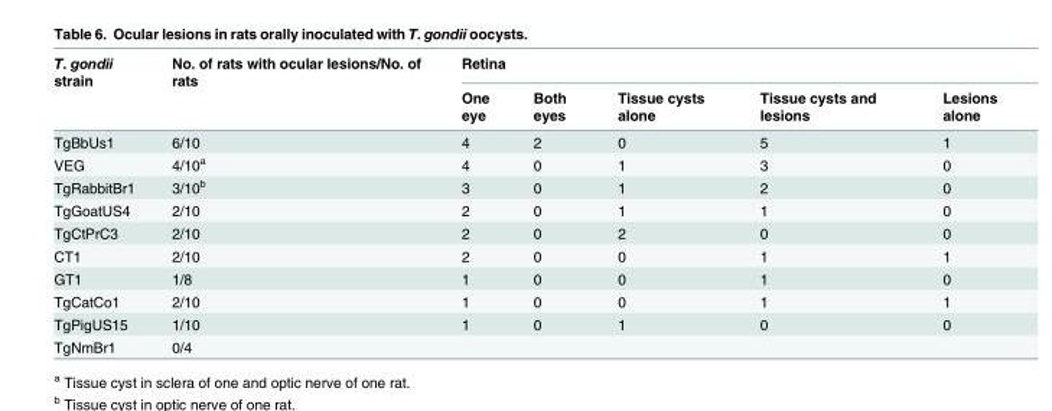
<table><thead><tr><td rowspan="2">T. gondii strain</td><td rowspan="2">No. of rats with ocular lesions/No. of rats</td><td colspan="5">Retina</td></tr><tr><td>One eye</td><td>Both eyes</td><td>Tissue cysts alone</td><td>Tissue cysts and lesions</td><td>Lesions alone</td></tr></thead><tbody><tr><td>TgBbUs1</td><td>6/10</td><td>4</td><td>2</td><td>0</td><td>5</td><td>1</td></tr><tr><td>VEG</td><td>4/10<sup>a</sup></td><td>4</td><td>0</td><td>1</td><td>3</td><td>0</td></tr><tr><td>TgRabbitBr1</td><td>3/10<sup>b</sup></td><td>3</td><td>0</td><td>1</td><td>2</td><td>0</td></tr><tr><td>TgGoatUS4</td><td>2/10</td><td>2</td><td>0</td><td>1</td><td>1</td><td>0</td></tr><tr><td>TgCtPrC3</td><td>2/10</td><td>2</td><td>0</td><td>2</td><td>0</td><td>0</td></tr><tr><td>CT1</td><td>2/10</td><td>2</td><td>0</td><td>0</td><td>1</td><td>1</td></tr><tr><td>GT1</td><td>1/8</td><td>1</td><td>0</td><td>0</td><td>1</td><td>0</td></tr><tr><td>TgCatCo1</td><td>2/10</td><td>1</td><td>0</td><td>0</td><td>1</td><td>1</td></tr><tr><td>TgPigUS15</td><td>1/10</td><td>1</td><td>0</td><td>1</td><td>0</td><td>0</td></tr><tr><td>TgNmBr1</td><td>0/4</td><td></td><td></td><td></td><td></td><td></td></tr></tbody></table>